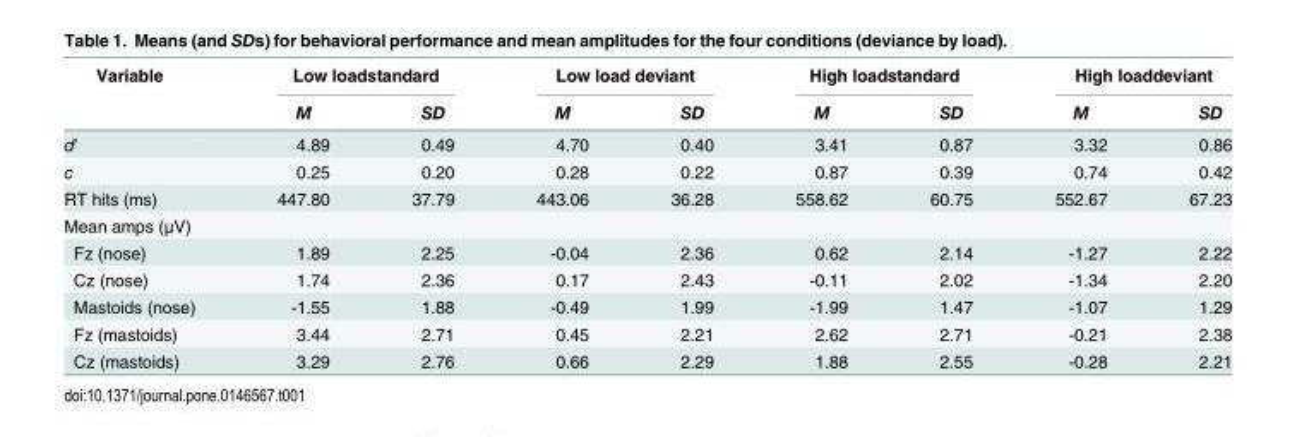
<table><thead><tr><td rowspan="2">Variable</td><td colspan="2">Low loadstandard</td><td colspan="2">Low load deviant</td><td colspan="2">High loadstandard</td><td colspan="2">High loaddeviant</td></tr><tr><td>M</td><td>SD</td><td>M</td><td>SD</td><td>M</td><td>SD</td><td>M</td><td>SD</td></tr></thead><tbody><tr><td>d′</td><td>4.89</td><td>0.49</td><td>4.70</td><td>0.40</td><td>3.41</td><td>0.87</td><td>3.32</td><td>0.86</td></tr><tr><td>c</td><td>0.25</td><td>0.20</td><td>0.28</td><td>0.22</td><td>0.87</td><td>0.39</td><td>0.74</td><td>0.42</td></tr><tr><td>RT hits (ms)</td><td>447.80</td><td>37.79</td><td>443.06</td><td>36.28</td><td>558.62</td><td>60.75</td><td>552.67</td><td>67.23</td></tr><tr><td colspan="9">Mean amps (μV)</td></tr><tr><td>Fz (nose)</td><td>1.89</td><td>2.25</td><td>-0.04</td><td>2.36</td><td>0.62</td><td>2.14</td><td>-1.27</td><td>2.22</td></tr><tr><td>Cz (nose)</td><td>1.74</td><td>2.36</td><td>0.17</td><td>2.43</td><td>-0.11</td><td>2.02</td><td>-1.34</td><td>2.20</td></tr><tr><td>Mastoids (nose)</td><td>-1.55</td><td>1.88</td><td>-0.49</td><td>1.99</td><td>-1.99</td><td>1.47</td><td>-1.07</td><td>1.29</td></tr><tr><td>Fz (mastoids)</td><td>3.44</td><td>2.71</td><td>0.45</td><td>2.21</td><td>2.62</td><td>2.71</td><td>-0.21</td><td>2.38</td></tr><tr><td>Cz (mastoids)</td><td>3.29</td><td>2.76</td><td>0.66</td><td>2.29</td><td>1.88</td><td>2.55</td><td>-0.28</td><td>2.21</td></tr></tbody></table>